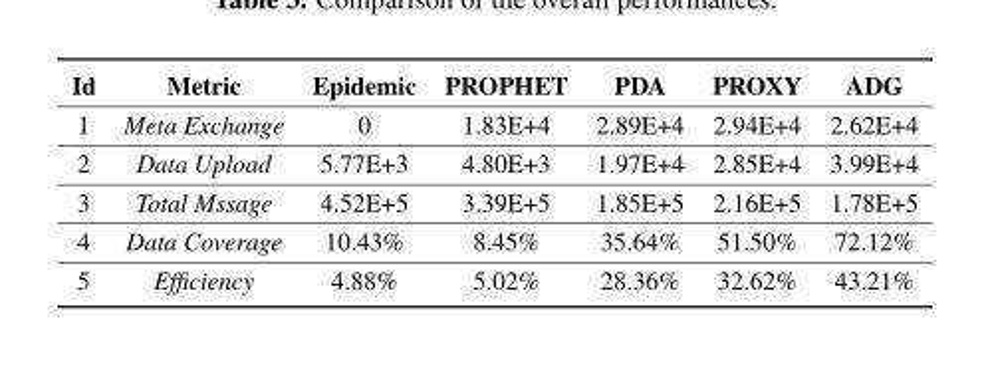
<table><thead><tr><td>Id</td><td>Metric</td><td>Epidemic</td><td>PROPHET</td><td>PDA</td><td>PROXY</td><td>ADG</td></tr></thead><tbody><tr><td>1</td><td>Meta Exchange</td><td>0</td><td>1.83E+4</td><td>2.89E+4</td><td>2.94E+4</td><td>2.62E+4</td></tr><tr><td>2</td><td>Data Upload</td><td>5.77E+3</td><td>4.80E+3</td><td>1.97E+4</td><td>2.85E+4</td><td>3.99E+4</td></tr><tr><td>3</td><td>Total Mssage</td><td>4.52E+5</td><td>3.39E+5</td><td>1.85E+5</td><td>2.16E+5</td><td>1.78E+5</td></tr><tr><td>4</td><td>Data Coverage</td><td>10.43%</td><td>8.45%</td><td>35.64%</td><td>51.50%</td><td>72.12%</td></tr><tr><td>5</td><td>Efficiency</td><td>4.88%</td><td>5.02%</td><td>28.36%</td><td>32.62%</td><td>43.21%</td></tr></tbody></table>